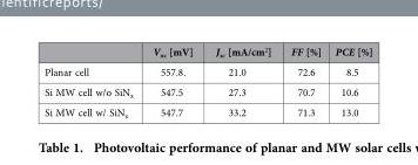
<table><thead><tr><td></td><td>V<sub>oc</sub> [mV]</td><td>J<sub>sc</sub> [mA/cm<sup>2</sup>]</td><td>FF [%]</td><td>PCE [%]</td></tr></thead><tbody><tr><td>Planar cell</td><td>557.8.</td><td>21.0</td><td>72.6</td><td>8.5</td></tr><tr><td>Si MW cell w/o SiN<sub>x</sub></td><td>547.5</td><td>27.3</td><td>70.7</td><td>10.6</td></tr><tr><td>Si MW cell w/ SiN<sub>x</sub></td><td>547.7</td><td>33.2</td><td>71.3</td><td>13.0</td></tr></tbody></table>